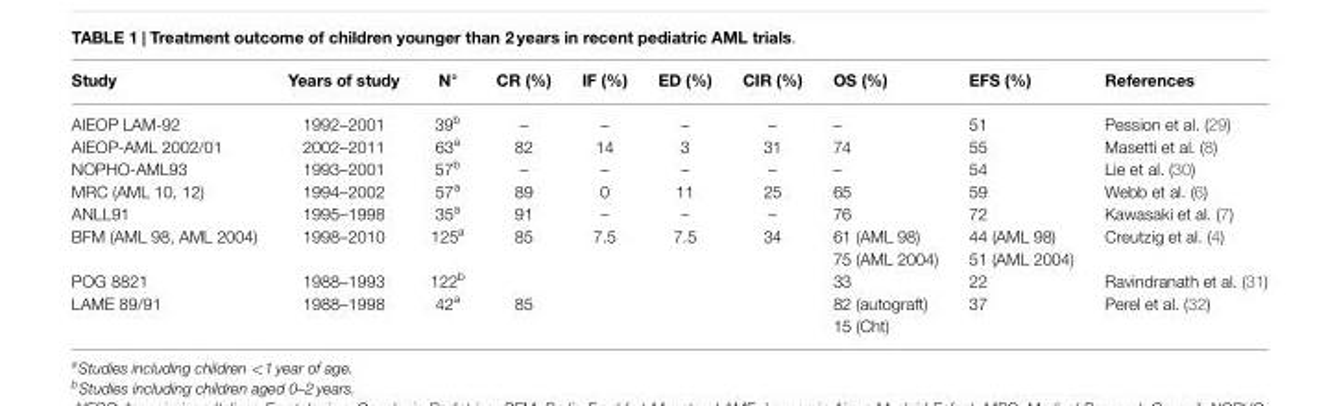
<table><thead><tr><td>Study</td><td>Years of study</td><td>N°</td><td>CR (%)</td><td>IF (%)</td><td>ED (%)</td><td>CIR (%)</td><td>OS (%)</td><td>EFS (%)</td><td>References</td></tr></thead><tbody><tr><td>AIEOP LAM-92</td><td>1992–2001</td><td>39<sup>b</sup></td><td>–</td><td>–</td><td>–</td><td>–</td><td>–</td><td>51</td><td>Pession et al. (29)</td></tr><tr><td>AIEOP-AML 2002/01</td><td>2002–2011</td><td>63<sup>a</sup></td><td>82</td><td>14</td><td>3</td><td>31</td><td>74</td><td>55</td><td>Masetti et al. (8)</td></tr><tr><td>NOPHO-AML93</td><td>1993–2001</td><td>57<sup>b</sup></td><td>–</td><td>–</td><td>–</td><td>–</td><td>–</td><td>54</td><td>Lie et al. (30)</td></tr><tr><td>MRC (AML 10, 12)</td><td>1994–2002</td><td>57<sup>a</sup></td><td>89</td><td>0</td><td>11</td><td>25</td><td>65</td><td>59</td><td>Webb et al. (6)</td></tr><tr><td>ANLL91</td><td>1995–1998</td><td>35<sup>a</sup></td><td>91</td><td>–</td><td>–</td><td>–</td><td>76</td><td>72</td><td>Kawasaki et al. (7)</td></tr><tr><td rowspan="2">BFM (AML 98, AML 2004)</td><td>1998–2010</td><td>125<sup>a</sup></td><td>85</td><td>7.5</td><td>7.5</td><td>34</td><td>61 (AML 98)</td><td>44 (AML 98)</td><td>Creutzig et al. (4)</td></tr><tr><td></td><td></td><td></td><td></td><td></td><td></td><td>75 (AML 2004)</td><td>51 (AML 2004)</td><td></td></tr><tr><td>POG 8821</td><td>1988–1993</td><td>122<sup>b</sup></td><td></td><td></td><td></td><td></td><td>33</td><td>22</td><td>Ravindranath et al. (31)</td></tr><tr><td rowspan="2">LAME 89/91</td><td>1988–1998</td><td>42<sup>a</sup></td><td>85</td><td></td><td></td><td></td><td>82 (autograft)</td><td>37</td><td>Perel et al. (32)</td></tr><tr><td></td><td></td><td></td><td></td><td></td><td></td><td>15 (Cht)</td><td></td><td></td></tr></tbody></table>